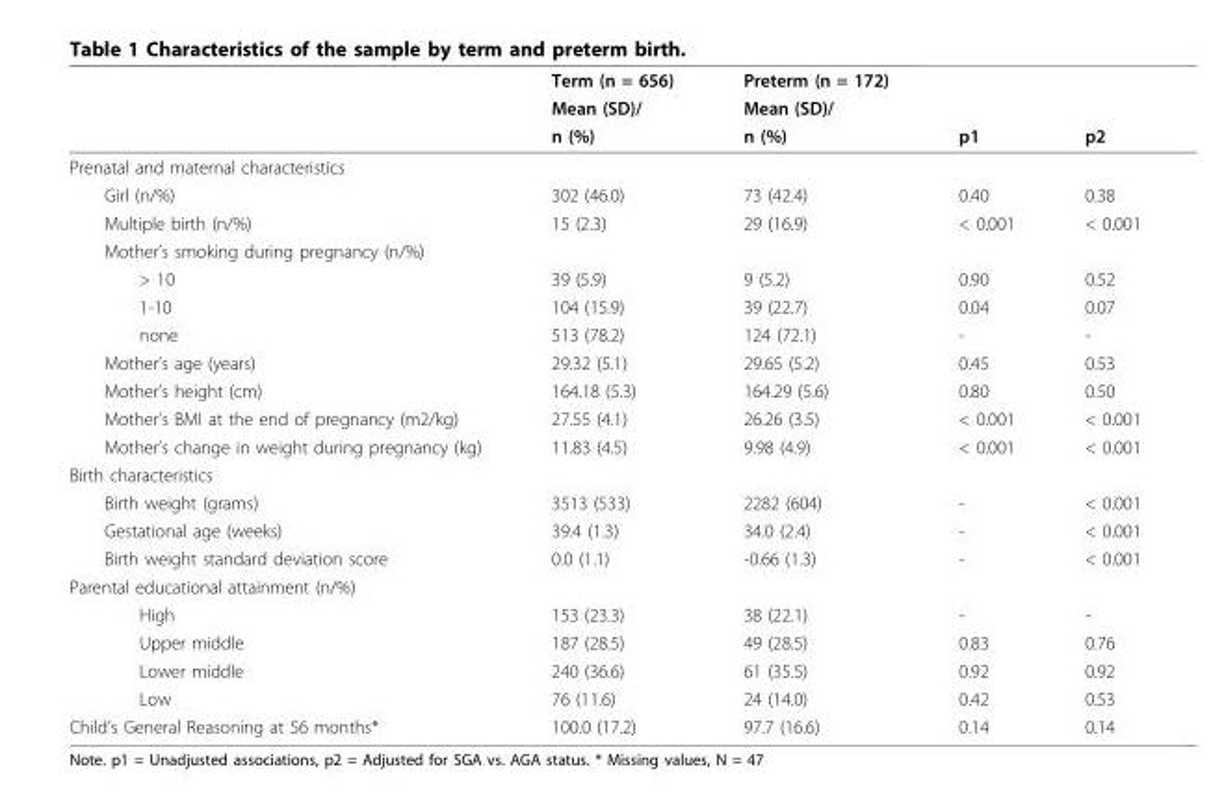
<table><thead><tr><td rowspan="3"></td><td rowspan="3">Term (n = 656) Mean (SD)/ n (%)</td><td rowspan="3">Preterm (n = 172) Mean (SD)/ n (%)</td><td rowspan="3">p1</td><td rowspan="3">p2</td></tr><tr></tr><tr></tr></thead><tbody><tr><td colspan="5">Prenatal and maternal characteristics</td></tr><tr><td>Girl (n/%)</td><td>302 (46.0)</td><td>73 (42.4)</td><td>0.40</td><td>0.38</td></tr><tr><td>Multiple birth (n/%)</td><td>15 (2.3)</td><td>29 (16.9)</td><td>&lt; 0.001</td><td>&lt; 0.001</td></tr><tr><td colspan="5">Mother’s smoking during pregnancy (n/%)</td></tr><tr><td>&gt; 10</td><td>39 (5.9)</td><td>9 (5.2)</td><td>0.90</td><td>0.52</td></tr><tr><td>1-10</td><td>104 (15.9)</td><td>39 (22.7)</td><td>0.04</td><td>0.07</td></tr><tr><td>none</td><td>513 (78.2)</td><td>124 (72.1)</td><td>-</td><td>-</td></tr><tr><td>Mother’s age (years)</td><td>29.32 (5.1)</td><td>29.65 (5.2)</td><td>0.45</td><td>0.53</td></tr><tr><td>Mother’s height (cm)</td><td>164.18 (5.3)</td><td>164.29 (5.6)</td><td>0.80</td><td>0.50</td></tr><tr><td>Mother’s BMI at the end of pregnancy (m2/kg)</td><td>27.55 (4.1)</td><td>26.26 (3.5)</td><td>&lt; 0.001</td><td>&lt; 0.001</td></tr><tr><td>Mother’s change in weight during pregnancy (kg)</td><td>11.83 (4.5)</td><td>9.98 (4.9)</td><td>&lt; 0.001</td><td>&lt; 0.001</td></tr><tr><td colspan="5">Birth characteristics</td></tr><tr><td>Birth weight (grams)</td><td>3513 (533)</td><td>2282 (604)</td><td>-</td><td>&lt; 0.001</td></tr><tr><td>Gestational age (weeks)</td><td>39.4 (1.3)</td><td>34.0 (2.4)</td><td>-</td><td>&lt; 0.001</td></tr><tr><td>Birth weight standard deviation score</td><td>0.0 (1.1)</td><td>-0.66 (1.3)</td><td>-</td><td>&lt; 0.001</td></tr><tr><td colspan="5">Parental educational attainment (n/%)</td></tr><tr><td>High</td><td>153 (23.3)</td><td>38 (22.1)</td><td>-</td><td>-</td></tr><tr><td>Upper middle</td><td>187 (28.5)</td><td>49 (28.5)</td><td>0.83</td><td>0.76</td></tr><tr><td>Lower middle</td><td>240 (36.6)</td><td>61 (35.5)</td><td>0.92</td><td>0.92</td></tr><tr><td>Low</td><td>76 (11.6)</td><td>24 (14.0)</td><td>0.42</td><td>0.53</td></tr><tr><td>Child’s General Reasoning at 56 months*</td><td>100.0 (17.2)</td><td>97.7 (16.6)</td><td>0.14</td><td>0.14</td></tr></tbody></table>